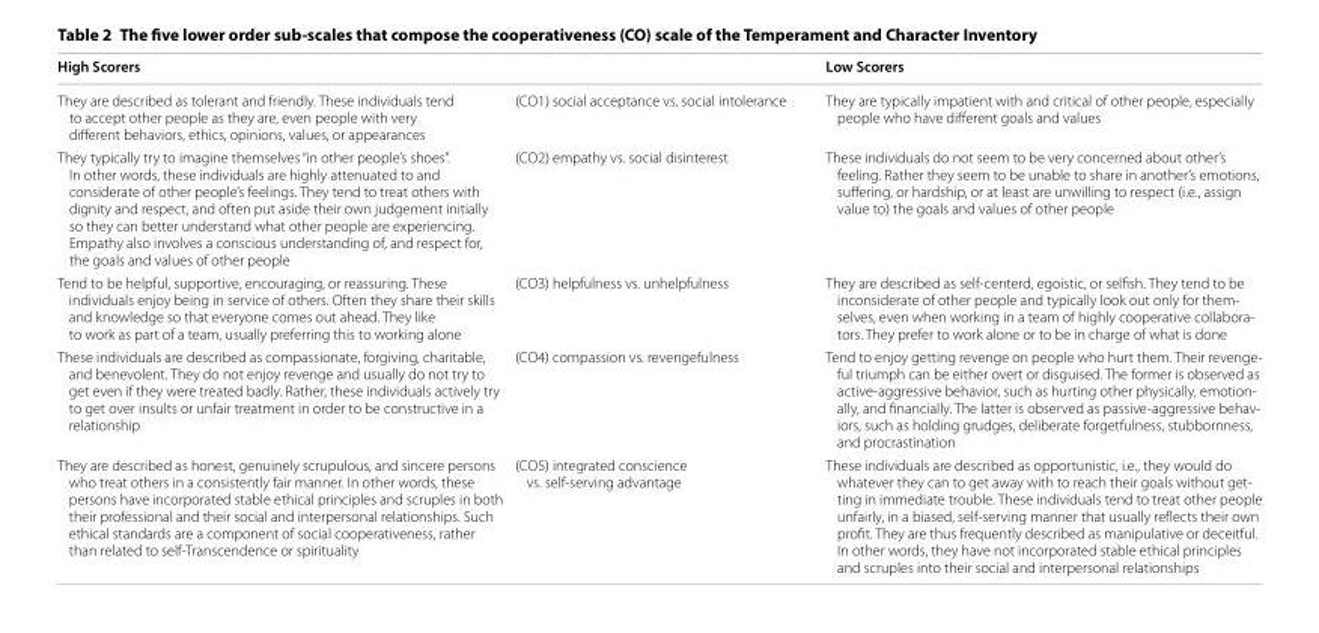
<table><thead><tr><td>High Scorers</td><td></td><td>Low Scorers</td></tr></thead><tbody><tr><td>They are described as tolerant and friendly. These individuals tend to accept other people as they are, even people with very different behaviors, ethics, opinions, values, or appearances</td><td>(CO1) social acceptance vs. social intolerance</td><td>They are typically impatient with and critical of other people, especially people who have different goals and values</td></tr><tr><td>They typically try to imagine themselves “in other people’s shoes”. In other words, these individuals are highly attenuated to and considerate of other people’s feelings. They tend to treat others with dignity and respect, and often put aside their own judgement initially so they can better understand what other people are experiencing. Empathy also involves a conscious understanding of, and respect for, the goals and values of other people</td><td>(CO2) empathy vs. social disinterest</td><td>These individuals do not seem to be very concerned about other’s feeling. Rather they seem to be unable to share in another’s emotions, suffering, or hardship, or at least are unwilling to respect (i.e., assign value to) the goals and values of other people</td></tr><tr><td>Tend to be helpful, supportive, encouraging, or reassuring. These individuals enjoy being in service of others. Often they share their skills and knowledge so that everyone comes out ahead. They like to work as part of a team, usually preferring this to working alone</td><td>(CO3) helpfulness vs. unhelpfulness</td><td>They are described as self-centerd, egoistic, or selfish. They tend to be inconsiderate of other people and typically look out only for them- selves, even when working in a team of highly cooperative collabora- tors. They prefer to work alone or to be in charge of what is done</td></tr><tr><td>These individuals are described as compassionate, forgiving, charitable, and benevolent. They do not enjoy revenge and usually do not try to get even if they were treated badly. Rather, these individuals actively try to get over insults or unfair treatment in order to be constructive in a relationship</td><td>(CO4) compassion vs. revengefulness</td><td>Tend to enjoy getting revenge on people who hurt them. Their revenge- ful triumph can be either overt or disguised. The former is observed as active-aggressive behavior, such as hurting other physically, emotion- ally, and financially. The latter is observed as passive-aggressive behav- iors, such as holding grudges, deliberate forgetfulness, stubbornness, and procrastination</td></tr><tr><td>They are described as honest, genuinely scrupulous, and sincere persons who treat others in a consistently fair manner. In other words, these persons have incorporated stable ethical principles and scruples in both their professional and their social and interpersonal relationships. Such ethical standards are a component of social cooperativeness, rather than related to self-Transcendence or spirituality</td><td>(CO5) integrated conscience vs. self-serving advantage</td><td>These individuals are described as opportunistic, i.e., they would do whatever they can to get away with to reach their goals without get- ting in immediate trouble. These individuals tend to treat other people unfairly, in a biased, self-serving manner that usually reflects their own profit. They are thus frequently described as manipulative or deceitful. In other words, they have not incorporated stable ethical principles and scruples into their social and interpersonal relationships</td></tr></tbody></table>